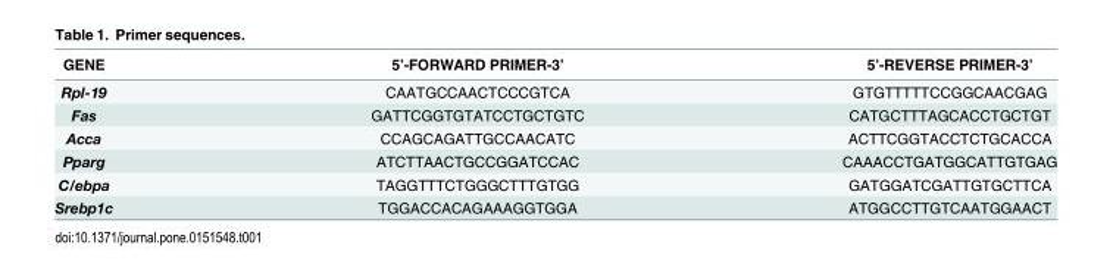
<table><thead><tr><td>GENE</td><td>5’-FORWARD PRIMER-3’</td><td>5’-REVERSE PRIMER-3’</td></tr></thead><tbody><tr><td>Rpl-19</td><td>CAATGCCAACTCCCGTCA</td><td>GTGTTTTTCCGGCAACGAG</td></tr><tr><td>Fas</td><td>GATTCGGTGTATCCTGCTGTC</td><td>CATGCTTTAGCACCTGCTGT</td></tr><tr><td>Acca</td><td>CCAGCAGATTGCCAACATC</td><td>ACTTCGGTACCTCTGCACCA</td></tr><tr><td>Pparg</td><td>ATCTTAACTGCCGGATCCAC</td><td>CAAACCTGATGGCATTGTGAG</td></tr><tr><td>C/ebpa</td><td>TAGGTTTCTGGGCTTTGTGG</td><td>GATGGATCGATTGTGCTTCA</td></tr><tr><td>Srebp1c</td><td>TGGACCACAGAAAGGTGGA</td><td>ATGGCCTTGTCAATGGAACT</td></tr></tbody></table>